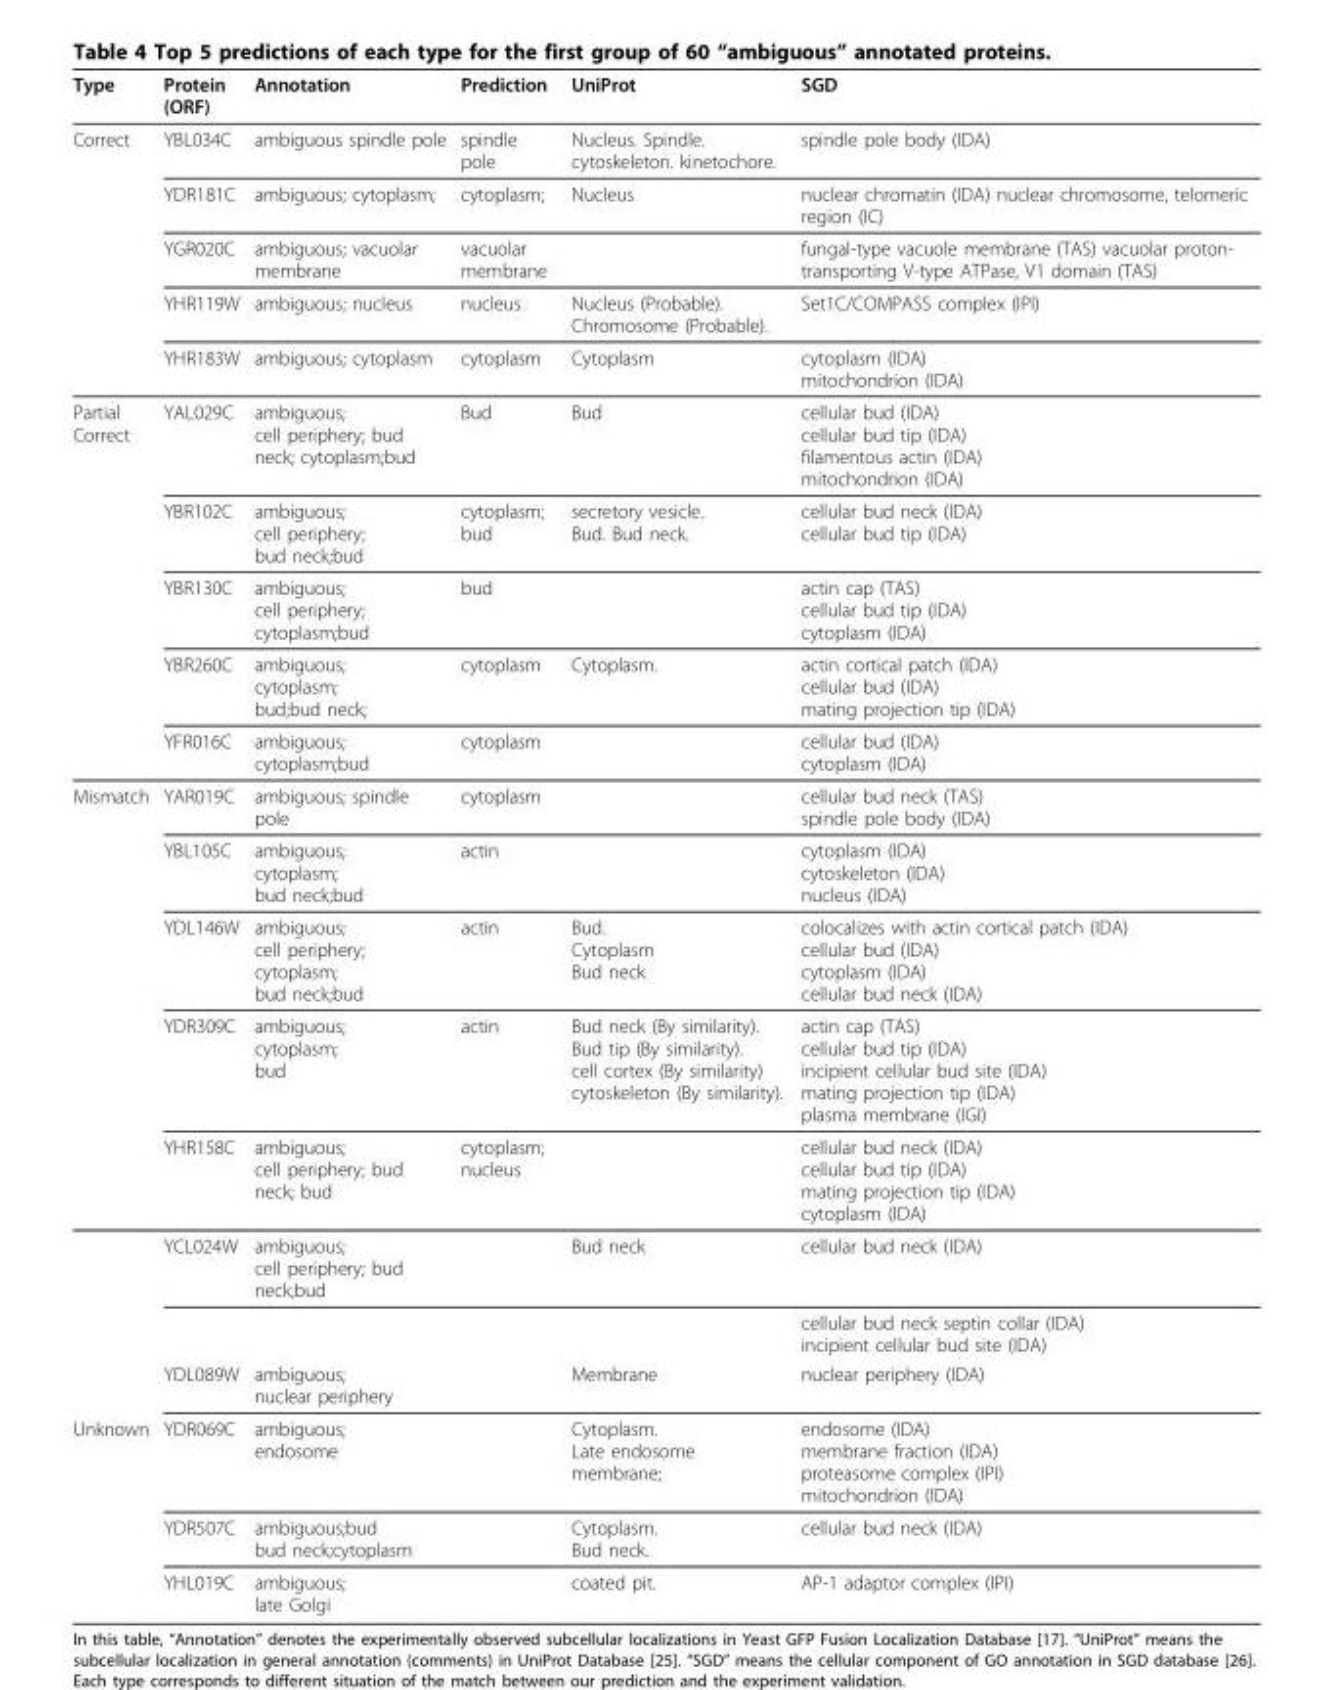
<table><thead><tr><td>Type</td><td>Protein (ORF)</td><td>Annotation</td><td>Prediction</td><td>UniProt</td><td>SGD</td></tr></thead><tbody><tr><td rowspan="5">Correct</td><td>YBL034C</td><td>ambiguous spindle pole</td><td>spindle pole</td><td>Nucleus. Spindle. cytoskeleton. kinetochore.</td><td>spindle pole body (IDA)</td></tr><tr><td>YDR181C</td><td>ambiguous; cytoplasm;</td><td>cytoplasm;</td><td>Nucleus</td><td>nuclear chromatin (IDA) nuclear chromosome, telomeric region (IC)</td></tr><tr><td>YGR020C</td><td>ambiguous; vacuolar membrane</td><td>vacuolar membrane</td><td></td><td>fungal-type vacuole membrane (TAS) vacuolar proton- transporting V-type ATPase, V1 domain (TAS)</td></tr><tr><td>YHR119W</td><td>ambiguous; nucleus</td><td>nucleus</td><td>Nucleus (Probable). Chromosome (Probable).</td><td>Set1C/COMPASS complex (IPI)</td></tr><tr><td>YHR183W</td><td>ambiguous; cytoplasm</td><td>cytoplasm</td><td>Cytoplasm</td><td>cytoplasm (IDA) mitochondrion (IDA)</td></tr><tr><td rowspan="5">Partial Correct</td><td>YAL029C</td><td>ambiguous; cell periphery; bud neck; cytoplasm;bud</td><td>Bud</td><td>Bud</td><td>cellular bud (IDA) cellular bud tip (IDA) filamentous actin (IDA) mitochondrion (IDA)</td></tr><tr><td>YBR102C</td><td>ambiguous; cell periphery; bud neck;bud</td><td>cytoplasm; bud</td><td>secretory vesicle. Bud. Bud neck.</td><td>cellular bud neck (IDA) cellular bud tip (IDA)</td></tr><tr><td>YBR130C</td><td>ambiguous; cell periphery; cytoplasm;bud</td><td>bud</td><td></td><td>actin cap (TAS) cellular bud tip (IDA) cytoplasm (IDA)</td></tr><tr><td>YBR260C</td><td>ambiguous; cytoplasm; bud;bud neck;</td><td>cytoplasm</td><td>Cytoplasm.</td><td>actin cortical patch (IDA) cellular bud (IDA) mating projection tip (IDA)</td></tr><tr><td>YFR016C</td><td>ambiguous; cytoplasm;bud</td><td>cytoplasm</td><td></td><td>cellular bud (IDA) cytoplasm (IDA)</td></tr><tr><td rowspan="8">Mismatch</td><td>YAR019C</td><td>ambiguous; spindle pole</td><td>cytoplasm</td><td></td><td>cellular bud neck (TAS) spindle pole body (IDA)</td></tr><tr><td>YBL105C</td><td>ambiguous; cytoplasm; bud neck;bud</td><td>actin</td><td></td><td>cytoplasm (IDA) cytoskeleton (IDA) nucleus (IDA)</td></tr><tr><td>YDL146W</td><td>ambiguous; cell periphery; cytoplasm; bud neck;bud</td><td>actin</td><td>Bud. Cytoplasm Bud neck</td><td>colocalizes with actin cortical patch (IDA) cellular bud (IDA) cytoplasm (IDA) cellular bud neck (IDA)</td></tr><tr><td>YDR309C</td><td>ambiguous; cytoplasm; bud</td><td>actin</td><td>Bud neck (By similarity). Bud tip (By similarity). cell cortex (By similarity) cytoskeleton (By similarity).</td><td>actin cap (TAS) cellular bud tip (IDA) incipient cellular bud site (IDA) mating projection tip (IDA) plasma membrane (IGI)</td></tr><tr><td>YHR158C</td><td>ambiguous; cell periphery; bud neck; bud</td><td>cytoplasm; nucleus</td><td></td><td>cellular bud neck (IDA) cellular bud tip (IDA) mating projection tip (IDA) cytoplasm (IDA)</td></tr><tr><td>YCL024W</td><td>ambiguous; cell periphery; bud neck;bud</td><td></td><td>Bud neck</td><td>cellular bud neck (IDA)</td></tr><tr><td></td><td></td><td></td><td></td><td>cellular bud neck septin collar (IDA) incipient cellular bud site (IDA)</td></tr><tr><td>YDL089W</td><td>ambiguous; nuclear periphery</td><td></td><td>Membrane</td><td>nuclear periphery (IDA)</td></tr><tr><td rowspan="3">Unknown</td><td>YDR069C</td><td>ambiguous; endosome</td><td></td><td>Cytoplasm. Late endosome membrane;</td><td>endosome (IDA) membrane fraction (IDA) proteasome complex (IPI) mitochondrion (IDA)</td></tr><tr><td>YDR507C</td><td>ambiguous;bud bud neck;cytoplasm</td><td></td><td>Cytoplasm. Bud neck.</td><td>cellular bud neck (IDA)</td></tr><tr><td>YHL019C</td><td>ambiguous; late Golgi</td><td></td><td>coated pit.</td><td>AP-1 adaptor complex (IPI)</td></tr></tbody></table>